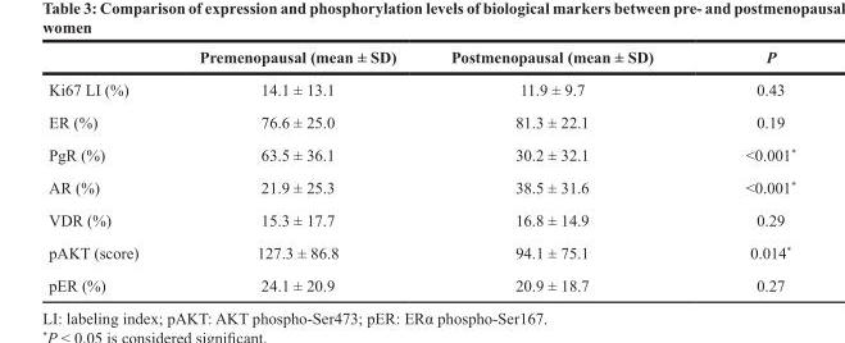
<table><thead><tr><td></td><td>Premenopausal (mean ± SD)</td><td>Postmenopausal (mean ± SD)</td><td>P</td></tr></thead><tbody><tr><td>Ki67 LI (%)</td><td>14.1 ± 13.1</td><td>11.9 ± 9.7</td><td>0.43</td></tr><tr><td>ER (%)</td><td>76.6 ± 25.0</td><td>81.3 ± 22.1</td><td>0.19</td></tr><tr><td>PgR (%)</td><td>63.5 ± 36.1</td><td>30.2 ± 32.1</td><td>&lt;0.001*</td></tr><tr><td>AR (%)</td><td>21.9 ± 25.3</td><td>38.5 ± 31.6</td><td>&lt;0.001*</td></tr><tr><td>VDR (%)</td><td>15.3 ± 17.7</td><td>16.8 ± 14.9</td><td>0.29</td></tr><tr><td>pAKT (score)</td><td>127.3 ± 86.8</td><td>94.1 ± 75.1</td><td>0.014*</td></tr><tr><td>pER (%)</td><td>24.1 ± 20.9</td><td>20.9 ± 18.7</td><td>0.27</td></tr></tbody></table>